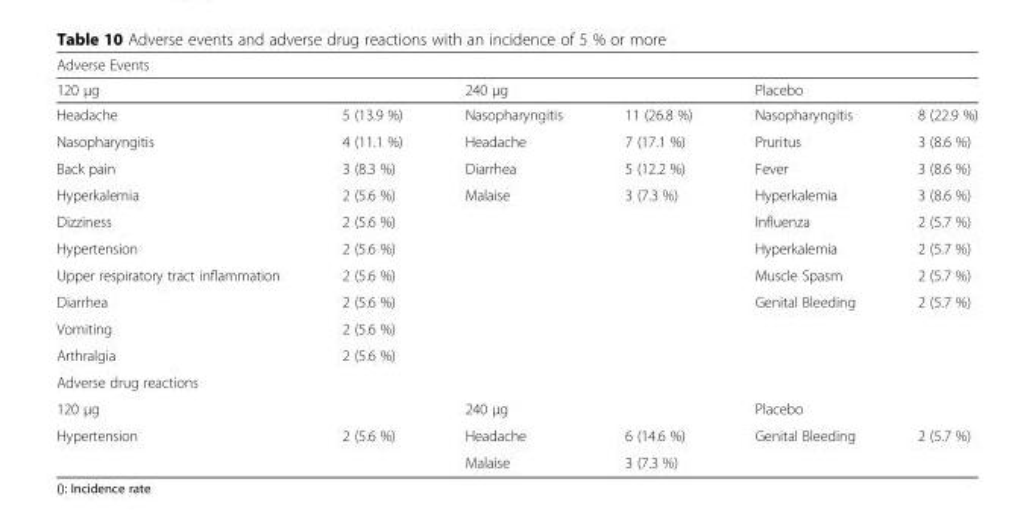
<table><thead><tr><td colspan="6">Adverse Events</td></tr><tr><td colspan="2">120 μg</td><td colspan="2">240 μg</td><td colspan="2">Placebo</td></tr><tr><td>Headache</td><td>5 (13.9 %)</td><td>Nasopharyngitis</td><td>11 (26.8 %)</td><td>Nasopharyngitis</td><td>8 (22.9 %)</td></tr></thead><tbody><tr><td>Nasopharyngitis</td><td>4 (11.1 %)</td><td>Headache</td><td>7 (17.1 %)</td><td>Pruritus</td><td>3 (8.6 %)</td></tr><tr><td>Back pain</td><td>3 (8.3 %)</td><td>Diarrhea</td><td>5 (12.2 %)</td><td>Fever</td><td>3 (8.6 %)</td></tr><tr><td>Hyperkalemia</td><td>2 (5.6 %)</td><td>Malaise</td><td>3 (7.3 %)</td><td>Hyperkalemia</td><td>3 (8.6 %)</td></tr><tr><td>Dizziness</td><td>2 (5.6 %)</td><td></td><td></td><td>Influenza</td><td>2 (5.7 %)</td></tr><tr><td>Hypertension</td><td>2 (5.6 %)</td><td></td><td></td><td>Hyperkalemia</td><td>2 (5.7 %)</td></tr><tr><td>Upper respiratory tract inflammation</td><td>2 (5.6 %)</td><td></td><td></td><td>Muscle Spasm</td><td>2 (5.7 %)</td></tr><tr><td>Diarrhea</td><td>2 (5.6 %)</td><td></td><td></td><td>Genital Bleeding</td><td>2 (5.7 %)</td></tr><tr><td>Vomiting</td><td>2 (5.6 %)</td><td></td><td></td><td></td><td></td></tr><tr><td>Arthralgia</td><td>2 (5.6 %)</td><td></td><td></td><td></td><td></td></tr><tr><td colspan="6">Adverse drug reactions</td></tr><tr><td colspan="2">120 μg</td><td colspan="2">240 μg</td><td colspan="2">Placebo</td></tr><tr><td rowspan="2">Hypertension</td><td>2 (5.6 %)</td><td>Headache</td><td>6 (14.6 %)</td><td>Genital Bleeding</td><td>2 (5.7 %)</td></tr><tr><td></td><td>Malaise</td><td>3 (7.3 %)</td><td></td><td></td></tr></tbody></table>